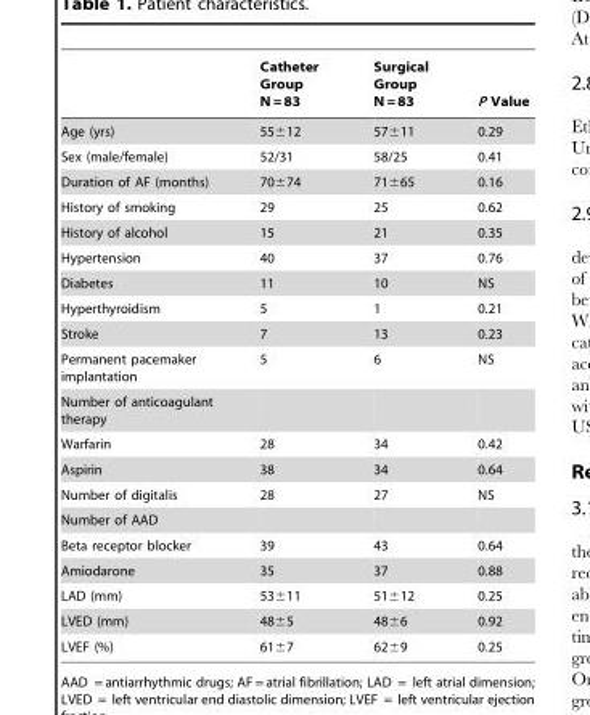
<table><thead><tr><td></td><td>Catheter Group N = 83</td><td>Surgical Group N = 83</td><td>P Value</td></tr></thead><tbody><tr><td>Age (yrs)</td><td>55±12</td><td>57±11</td><td>0.29</td></tr><tr><td>Sex (male/female)</td><td>52/31</td><td>58/25</td><td>0.41</td></tr><tr><td>Duration of AF (months)</td><td>70±74</td><td>71±65</td><td>0.16</td></tr><tr><td>History of smoking</td><td>29</td><td>25</td><td>0.62</td></tr><tr><td>History of alcohol</td><td>15</td><td>21</td><td>0.35</td></tr><tr><td>Hypertension</td><td>40</td><td>37</td><td>0.76</td></tr><tr><td>Diabetes</td><td>11</td><td>10</td><td>NS</td></tr><tr><td>Hyperthyroidism</td><td>5</td><td>1</td><td>0.21</td></tr><tr><td>Stroke</td><td>7</td><td>13</td><td>0.23</td></tr><tr><td>Permanent pacemaker implantation</td><td>5</td><td>6</td><td>NS</td></tr><tr><td colspan="4">Number of anticoagulant therapy</td></tr><tr><td>Warfarin</td><td>28</td><td>34</td><td>0.42</td></tr><tr><td>Aspirin</td><td>38</td><td>34</td><td>0.64</td></tr><tr><td>Number of digitalis</td><td>28</td><td>27</td><td>NS</td></tr><tr><td colspan="4">Number of AAD</td></tr><tr><td>Beta receptor blocker</td><td>39</td><td>43</td><td>0.64</td></tr><tr><td>Amiodarone</td><td>35</td><td>37</td><td>0.88</td></tr><tr><td>LAD (mm)</td><td>53±11</td><td>51±12</td><td>0.25</td></tr><tr><td>LVED (mm)</td><td>48±5</td><td>48±6</td><td>0.92</td></tr><tr><td>LVEF (%)</td><td>61±7</td><td>62±9</td><td>0.25</td></tr></tbody></table>